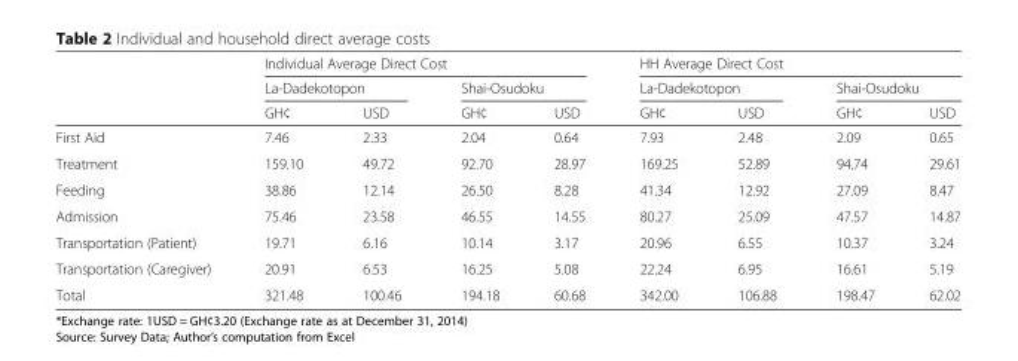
<table><thead><tr><td rowspan="3"></td><td colspan="4">Individual Average Direct Cost</td><td colspan="4">HH Average Direct Cost</td></tr><tr><td colspan="2">La-Dadekotopon</td><td colspan="2">Shai-Osudoku</td><td colspan="2">La-Dadekotopon</td><td colspan="2">Shai-Osudoku</td></tr><tr><td>GH¢</td><td>USD</td><td>GH¢</td><td>USD</td><td>GH¢</td><td>USD</td><td>GH¢</td><td>USD</td></tr></thead><tbody><tr><td>First Aid</td><td>7.46</td><td>2.33</td><td>2.04</td><td>0.64</td><td>7.93</td><td>2.48</td><td>2.09</td><td>0.65</td></tr><tr><td>Treatment</td><td>159.10</td><td>49.72</td><td>92.70</td><td>28.97</td><td>169.25</td><td>52.89</td><td>94.74</td><td>29.61</td></tr><tr><td>Feeding</td><td>38.86</td><td>12.14</td><td>26.50</td><td>8.28</td><td>41.34</td><td>12.92</td><td>27.09</td><td>8.47</td></tr><tr><td>Admission</td><td>75.46</td><td>23.58</td><td>46.55</td><td>14.55</td><td>80.27</td><td>25.09</td><td>47.57</td><td>14.87</td></tr><tr><td>Transportation (Patient)</td><td>19.71</td><td>6.16</td><td>10.14</td><td>3.17</td><td>20.96</td><td>6.55</td><td>10.37</td><td>3.24</td></tr><tr><td>Transportation (Caregiver)</td><td>20.91</td><td>6.53</td><td>16.25</td><td>5.08</td><td>22.24</td><td>6.95</td><td>16.61</td><td>5.19</td></tr><tr><td>Total</td><td>321.48</td><td>100.46</td><td>194.18</td><td>60.68</td><td>342.00</td><td>106.88</td><td>198.47</td><td>62.02</td></tr></tbody></table>